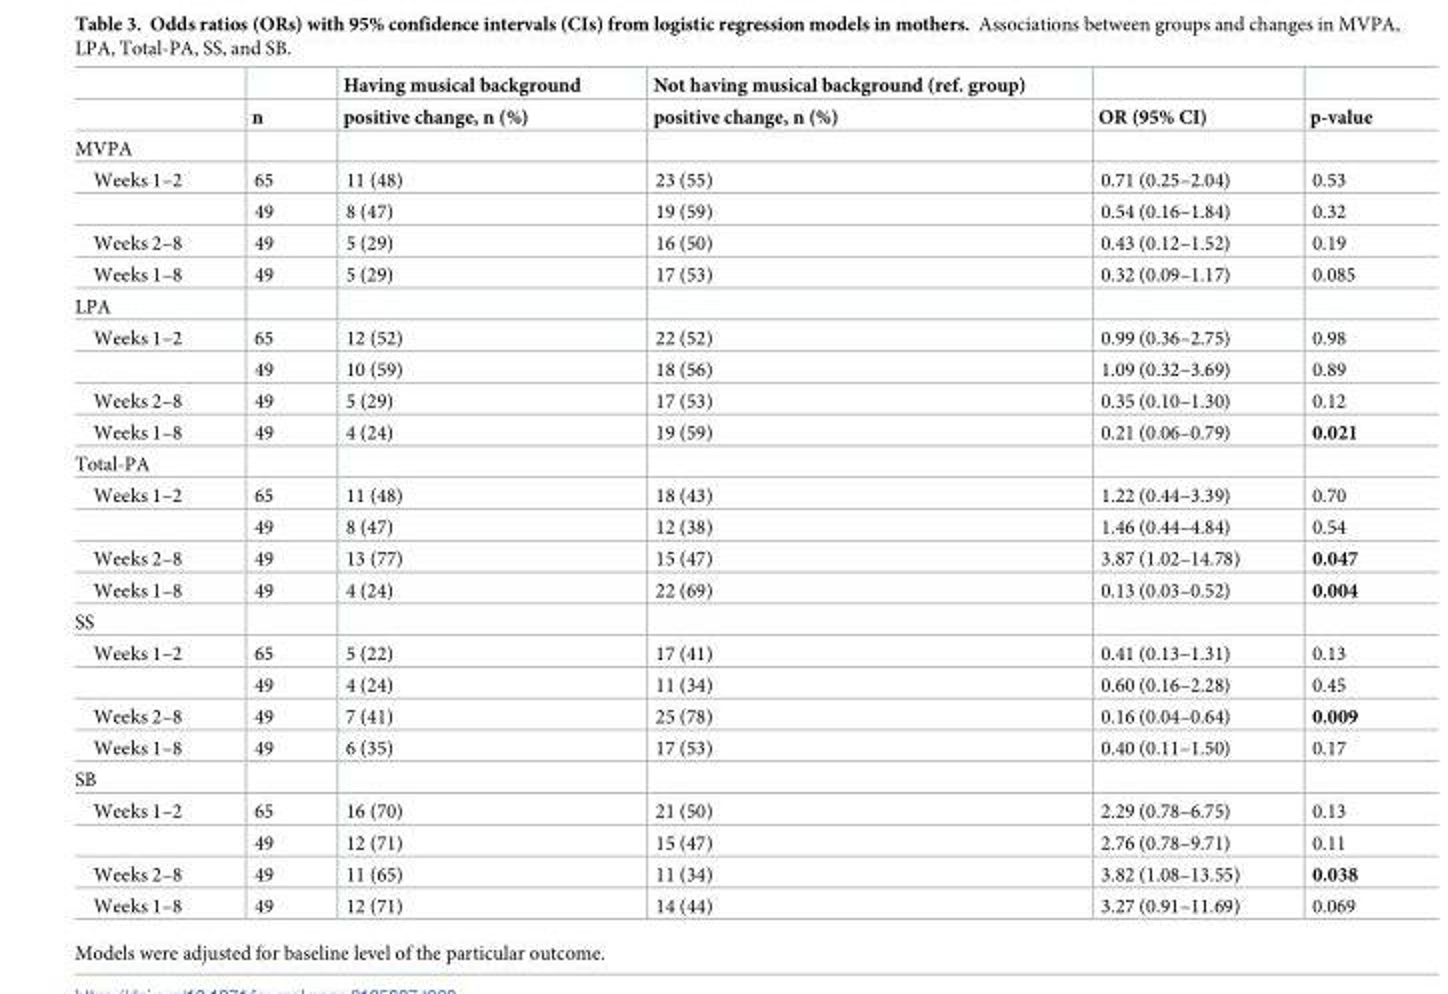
<table><thead><tr><td rowspan="2"></td><td rowspan="2">n</td><td rowspan="2">Having musical background positive change, n (%)</td><td rowspan="2">Not having musical background (ref. group) positive change, n (%)</td><td rowspan="2">OR (95% CI)</td><td rowspan="2">p-value</td></tr><tr></tr></thead><tbody><tr><td colspan="6">MVPA</td></tr><tr><td rowspan="2">Weeks 1–2</td><td>65</td><td>11 (48)</td><td>23 (55)</td><td>0.71 (0.25–2.04)</td><td>0.53</td></tr><tr><td>49</td><td>8 (47)</td><td>19 (59)</td><td>0.54 (0.16–1.84)</td><td>0.32</td></tr><tr><td>Weeks 2–8</td><td>49</td><td>5 (29)</td><td>16 (50)</td><td>0.43 (0.12–1.52)</td><td>0.19</td></tr><tr><td>Weeks 1–8</td><td>49</td><td>5 (29)</td><td>17 (53)</td><td>0.32 (0.09–1.17)</td><td>0.085</td></tr><tr><td colspan="6">LPA</td></tr><tr><td rowspan="2">Weeks 1–2</td><td>65</td><td>12 (52)</td><td>22 (52)</td><td>0.99 (0.36–2.75)</td><td>0.98</td></tr><tr><td>49</td><td>10 (59)</td><td>18 (56)</td><td>1.09 (0.32–3.69)</td><td>0.89</td></tr><tr><td>Weeks 2–8</td><td>49</td><td>5 (29)</td><td>17 (53)</td><td>0.35 (0.10–1.30)</td><td>0.12</td></tr><tr><td>Weeks 1–8</td><td>49</td><td>4 (24)</td><td>19 (59)</td><td>0.21 (0.06–0.79)</td><td>0.021</td></tr><tr><td colspan="6">Total-PA</td></tr><tr><td rowspan="2">Weeks 1–2</td><td>65</td><td>11 (48)</td><td>18 (43)</td><td>1.22 (0.44–3.39)</td><td>0.70</td></tr><tr><td>49</td><td>8 (47)</td><td>12 (38)</td><td>1.46 (0.44–4.84)</td><td>0.54</td></tr><tr><td>Weeks 2–8</td><td>49</td><td>13 (77)</td><td>15 (47)</td><td>3.87 (1.02–14.78)</td><td>0.047</td></tr><tr><td>Weeks 1–8</td><td>49</td><td>4 (24)</td><td>22 (69)</td><td>0.13 (0.03–0.52)</td><td>0.004</td></tr><tr><td colspan="6">SS</td></tr><tr><td rowspan="2">Weeks 1–2</td><td>65</td><td>5 (22)</td><td>17 (41)</td><td>0.41 (0.13–1.31)</td><td>0.13</td></tr><tr><td>49</td><td>4 (24)</td><td>11 (34)</td><td>0.60 (0.16–2.28)</td><td>0.45</td></tr><tr><td>Weeks 2–8</td><td>49</td><td>7 (41)</td><td>25 (78)</td><td>0.16 (0.04–0.64)</td><td>0.009</td></tr><tr><td>Weeks 1–8</td><td>49</td><td>6 (35)</td><td>17 (53)</td><td>0.40 (0.11–1.50)</td><td>0.17</td></tr><tr><td colspan="6">SB</td></tr><tr><td rowspan="2">Weeks 1–2</td><td>65</td><td>16 (70)</td><td>21 (50)</td><td>2.29 (0.78–6.75)</td><td>0.13</td></tr><tr><td>49</td><td>12 (71)</td><td>15 (47)</td><td>2.76 (0.78–9.71)</td><td>0.11</td></tr><tr><td>Weeks 2–8</td><td>49</td><td>11 (65)</td><td>11 (34)</td><td>3.82 (1.08–13.55)</td><td>0.038</td></tr><tr><td>Weeks 1–8</td><td>49</td><td>12 (71)</td><td>14 (44)</td><td>3.27 (0.91–11.69)</td><td>0.069</td></tr></tbody></table>